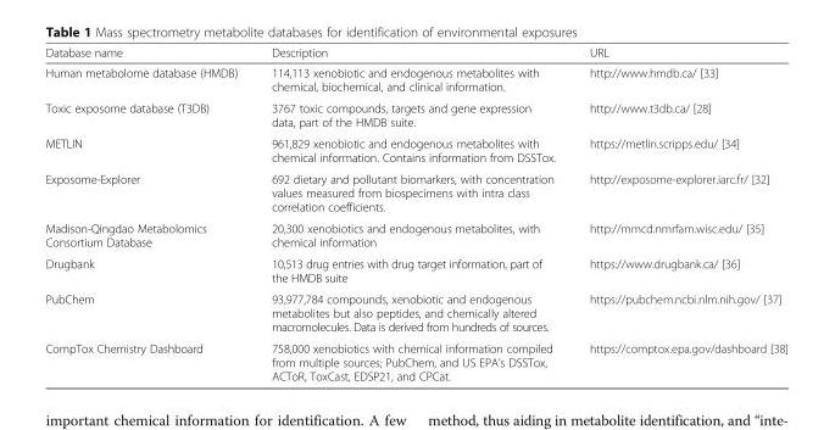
<table><thead><tr><td>Database name</td><td>Description</td><td>URL</td></tr></thead><tbody><tr><td>Human metabolome database (HMDB)</td><td>114,113 xenobiotic and endogenous metabolites with chemical, biochemical, and clinical information.</td><td>http://www.hmdb.ca/ [33]</td></tr><tr><td>Toxic exposome database (T3DB)</td><td>3767 toxic compounds, targets and gene expression data, part of the HMDB suite.</td><td>http://www.t3db.ca/ [28]</td></tr><tr><td>METLIN</td><td>961,829 xenobiotic and endogenous metabolites with chemical information. Contains information from DSSTox.</td><td>https://metlin.scripps.edu/ [34]</td></tr><tr><td>Exposome-Explorer</td><td>692 dietary and pollutant biomarkers, with concentration values measured from biospecimens with intra class correlation coefficients.</td><td>http://exposome-explorer.iarc.fr/ [32]</td></tr><tr><td>Madison-Qingdao Metabolomics Consortium Database</td><td>20,300 xenobiotics and endogenous metabolites, with chemical information</td><td>http://mmcd.nmrfam.wisc.edu/ [35]</td></tr><tr><td>Drugbank</td><td>10,513 drug entries with drug target information, part of the HMDB suite</td><td>https://www.drugbank.ca/ [36]</td></tr><tr><td>PubChem</td><td>93,977,784 compounds, xenobiotic and endogenous metabolites but also peptides, and chemically altered macromolecules. Data is derived from hundreds of sources.</td><td>https://pubchem.ncbi.nlm.nih.gov/ [37]</td></tr><tr><td>CompTox Chemistry Dashboard</td><td>758,000 xenobiotics with chemical information compiled from multiple sources; PubChem, and US EPA’s DSSTox, ACToR, ToxCast, EDSP21, and CPCat.</td><td>https://comptox.epa.gov/dashboard [38]</td></tr></tbody></table>